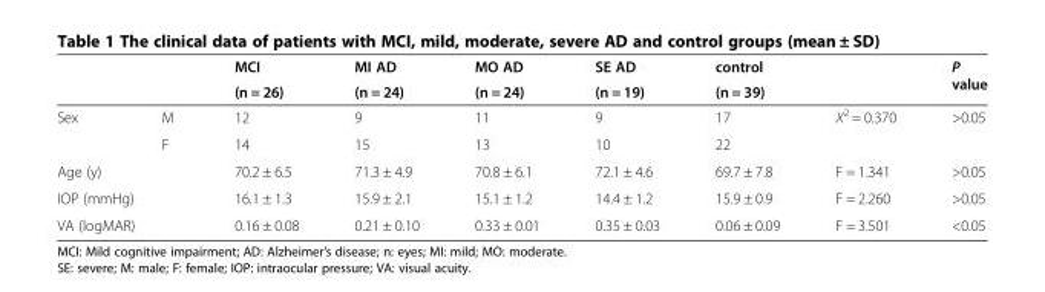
<table><thead><tr><td rowspan="2"></td><td rowspan="2"></td><td rowspan="2">MCI (n = 26)</td><td rowspan="2">MI AD (n = 24)</td><td rowspan="2">MO AD (n = 24)</td><td rowspan="2">SE AD (n = 19)</td><td rowspan="2">control (n = 39)</td><td rowspan="2"></td><td rowspan="2">P value</td></tr><tr></tr></thead><tbody><tr><td rowspan="2">Sex</td><td>M</td><td>12</td><td>9</td><td>11</td><td>9</td><td>17</td><td rowspan="2">X<sup>2</sup> = 0.370</td><td rowspan="2">&gt;0.05</td></tr><tr><td>F</td><td>14</td><td>15</td><td>13</td><td>10</td><td>22</td></tr><tr><td>Age (y)</td><td></td><td>70.2 ± 6.5</td><td>71.3 ± 4.9</td><td>70.8 ± 6.1</td><td>72.1 ± 4.6</td><td>69.7 ± 7.8</td><td>F = 1.341</td><td>&gt;0.05</td></tr><tr><td colspan="2">IOP (mmHg)</td><td>16.1 ± 1.3</td><td>15.9 ± 2.1</td><td>15.1 ± 1.2</td><td>14.4 ± 1.2</td><td>15.9 ± 0.9</td><td>F = 2.260</td><td>&gt;0.05</td></tr><tr><td colspan="2">VA (logMAR)</td><td>0.16 ± 0.08</td><td>0.21 ± 0.10</td><td>0.33 ± 0.01</td><td>0.35 ± 0.03</td><td>0.06 ± 0.09</td><td>F = 3.501</td><td>&lt;0.05</td></tr></tbody></table>